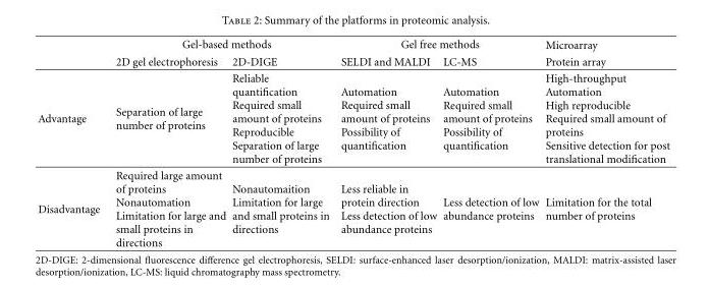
<table><thead><tr><td rowspan="2"></td><td colspan="2">Gel-based methods</td><td colspan="2">Gel free methods</td><td rowspan="2">Microarray Protein array</td></tr><tr><td>2D gel electrophoresis</td><td>2D-DIGE</td><td>SELDI and MALDI</td><td>LC-MS</td></tr></thead><tbody><tr><td>Advantage</td><td>Separation of large number of proteins</td><td>Reliable quantification Required small amount of proteins Reproducible Separation of large number of proteins</td><td>Automation Required small amount of proteins Possibility of quantification</td><td>Automation Required small amount of proteins Possibility of quantification</td><td>High-throughput Automation High reproducible Required small amount of proteins Sensitive detection for post translational modification</td></tr><tr><td>Disadvantage</td><td>Required large amount of proteins Nonautomation Limitation for large and small proteins in directions</td><td>Nonautomaition Limitation for large and small proteins in directions</td><td>Less reliable in protein direction Less detection of low abundance proteins</td><td>Less detection of low abundance proteins</td><td>Limitation for the total number of proteins</td></tr></tbody></table>